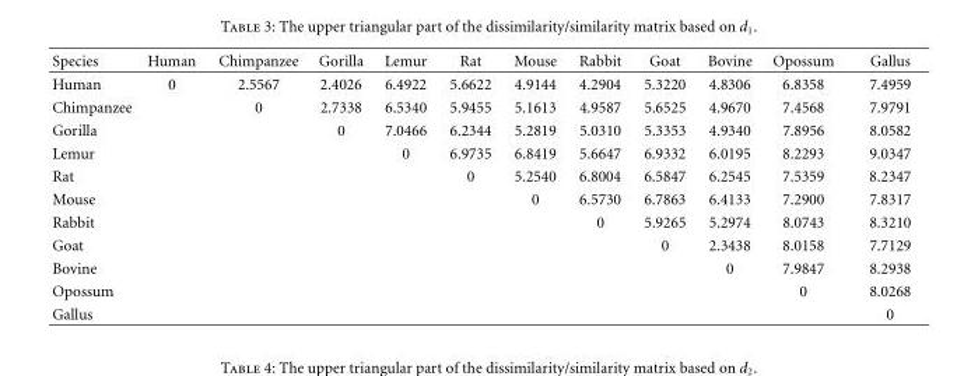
<table><thead><tr><td>Species</td><td>Human</td><td>Chimpanzee</td><td>Gorilla</td><td>Lemur</td><td>Rat</td><td>Mouse</td><td>Rabbit</td><td>Goat</td><td>Bovine</td><td>Opossum</td><td>Gallus</td></tr></thead><tbody><tr><td>Human</td><td>0</td><td>2.5567</td><td>2.4026</td><td>6.4922</td><td>5.6622</td><td>4.9144</td><td>4.2904</td><td>5.3220</td><td>4.8306</td><td>6.8358</td><td>7.4959</td></tr><tr><td>Chimpanzee</td><td></td><td>0</td><td>2.7338</td><td>6.5340</td><td>5.9455</td><td>5.1613</td><td>4.9587</td><td>5.6525</td><td>4.9670</td><td>7.4568</td><td>7.9791</td></tr><tr><td>Gorilla</td><td></td><td></td><td>0</td><td>7.0466</td><td>6.2344</td><td>5.2819</td><td>5.0310</td><td>5.3353</td><td>4.9340</td><td>7.8956</td><td>8.0582</td></tr><tr><td>Lemur</td><td></td><td></td><td></td><td>0</td><td>6.9735</td><td>6.8419</td><td>5.6647</td><td>6.9332</td><td>6.0195</td><td>8.2293</td><td>9.0347</td></tr><tr><td>Rat</td><td></td><td></td><td></td><td></td><td>0</td><td>5.2540</td><td>6.8004</td><td>6.5847</td><td>6.2545</td><td>7.5359</td><td>8.2347</td></tr><tr><td>Mouse</td><td></td><td></td><td></td><td></td><td></td><td>0</td><td>6.5730</td><td>6.7863</td><td>6.4133</td><td>7.2900</td><td>7.8317</td></tr><tr><td>Rabbit</td><td></td><td></td><td></td><td></td><td></td><td></td><td>0</td><td>5.9265</td><td>5.2974</td><td>8.0743</td><td>8.3210</td></tr><tr><td>Goat</td><td></td><td></td><td></td><td></td><td></td><td></td><td></td><td>0</td><td>2.3438</td><td>8.0158</td><td>7.7129</td></tr><tr><td>Bovine</td><td></td><td></td><td></td><td></td><td></td><td></td><td></td><td></td><td>0</td><td>7.9847</td><td>8.2938</td></tr><tr><td>Opossum</td><td></td><td></td><td></td><td></td><td></td><td></td><td></td><td></td><td></td><td>0</td><td>8.0268</td></tr><tr><td>Gallus</td><td></td><td></td><td></td><td></td><td></td><td></td><td></td><td></td><td></td><td></td><td>0</td></tr></tbody></table>